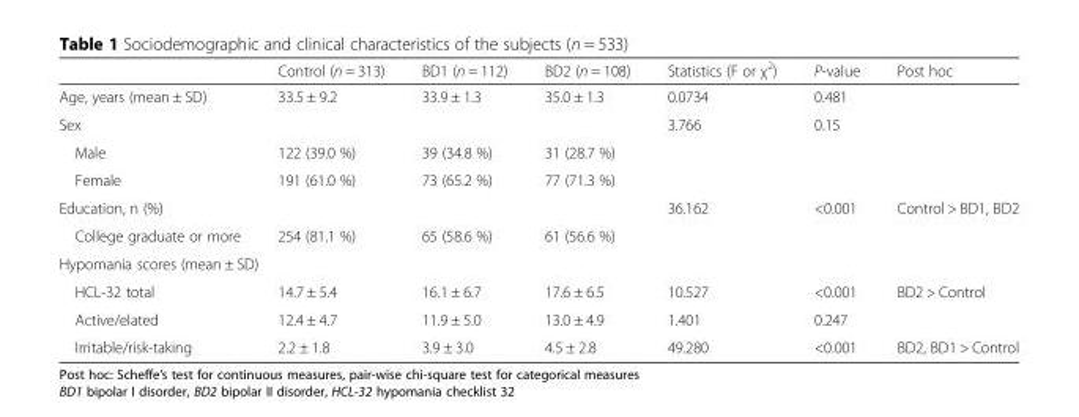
<table><thead><tr><td></td><td>Control (n = 313)</td><td>BD1 (n = 112)</td><td>BD2 (n = 108)</td><td>Statistics (F or χ<sup>2</sup>)</td><td>P-value</td><td>Post hoc</td></tr></thead><tbody><tr><td>Age, years (mean ± SD)</td><td>33.5 ± 9.2</td><td>33.9 ± 1.3</td><td>35.0 ± 1.3</td><td>0.0734</td><td>0.481</td><td></td></tr><tr><td>Sex</td><td></td><td></td><td></td><td>3.766</td><td>0.15</td><td></td></tr><tr><td>Male</td><td>122 (39.0 %)</td><td>39 (34.8 %)</td><td>31 (28.7 %)</td><td></td><td></td><td></td></tr><tr><td>Female</td><td>191 (61.0 %)</td><td>73 (65.2 %)</td><td>77 (71.3 %)</td><td></td><td></td><td></td></tr><tr><td>Education, n (%)</td><td></td><td></td><td></td><td>36.162</td><td>&lt;0.001</td><td>Control &gt; BD1, BD2</td></tr><tr><td>College graduate or more</td><td>254 (81.1 %)</td><td>65 (58.6 %)</td><td>61 (56.6 %)</td><td></td><td></td><td></td></tr><tr><td colspan="7">Hypomania scores (mean ± SD)</td></tr><tr><td>HCL-32 total</td><td>14.7 ± 5.4</td><td>16.1 ± 6.7</td><td>17.6 ± 6.5</td><td>10.527</td><td>&lt;0.001</td><td>BD2 &gt; Control</td></tr><tr><td>Active/elated</td><td>12.4 ± 4.7</td><td>11.9 ± 5.0</td><td>13.0 ± 4.9</td><td>1.401</td><td>0.247</td><td></td></tr><tr><td>Irritable/risk-taking</td><td>2.2 ± 1.8</td><td>3.9 ± 3.0</td><td>4.5 ± 2.8</td><td>49.280</td><td>&lt;0.001</td><td>BD2, BD1 &gt; Control</td></tr></tbody></table>